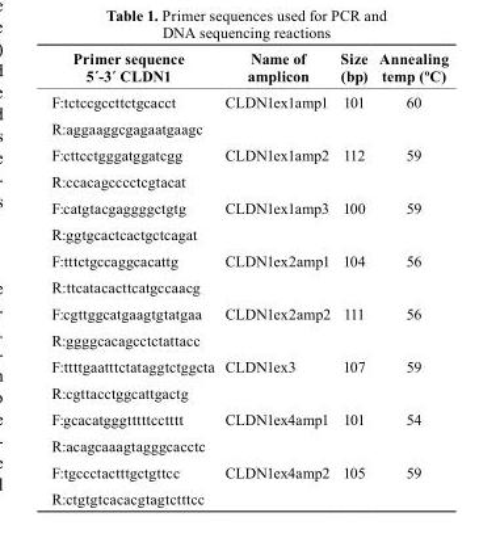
<table><thead><tr><td>Primer sequence 5´-3´ cLDN1</td><td>Name of amplicon</td><td>size (bp)</td><td>Annealing temp (ºc)</td></tr></thead><tbody><tr><td>F:tctccgccttctgcacct</td><td>CLDN1ex1amp1</td><td>101</td><td>60</td></tr><tr><td colspan="4">R:aggaaggcgagaatgaagc</td></tr><tr><td>F:cttcctgggatggatcgg</td><td>CLDN1ex1amp2</td><td>112</td><td>59</td></tr><tr><td colspan="4">R:ccacagcccctcgtacat</td></tr><tr><td>F:catgtacgaggggctgtg</td><td>CLDN1ex1amp3</td><td>100</td><td>59</td></tr><tr><td colspan="4">R:ggtgcactcactgctcagat</td></tr><tr><td>F:tttctgccaggcacattg</td><td>CLDN1ex2amp1</td><td>104</td><td>56</td></tr><tr><td colspan="4">R:ttcatacacttcatgccaacg</td></tr><tr><td>F:cgttggcatgaagtgtatgaa</td><td>CLDN1ex2amp2</td><td>111</td><td>56</td></tr><tr><td colspan="4">R:ggggcacagcctctattacc</td></tr><tr><td>F:ttttgaatttctataggtctggcta</td><td>CLDN1ex3</td><td>107</td><td>59</td></tr><tr><td colspan="4">R:cgttacctggcattgactg</td></tr><tr><td>F:gcacatgggtttttcctttt</td><td>CLDN1ex4amp1</td><td>101</td><td>54</td></tr><tr><td colspan="4">R:acagcaaagtagggcacctc</td></tr><tr><td>F:tgccctactttgctgttcc</td><td>CLDN1ex4amp2</td><td>105</td><td>59</td></tr><tr><td>R:ctgtgtcacacgtagtctttcc</td><td></td><td></td><td></td></tr></tbody></table>